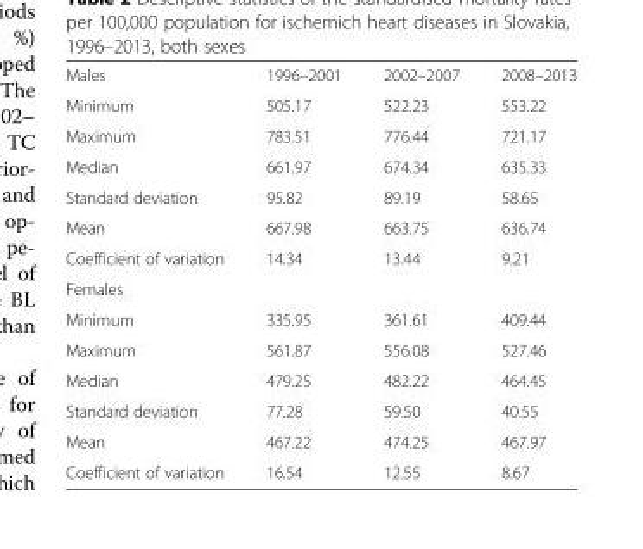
<table><tbody><tr><td>Males</td><td>1996–2001</td><td>2002–2007</td><td>2008–2013</td></tr><tr><td>Minimum</td><td>505.17</td><td>522.23</td><td>553.22</td></tr><tr><td>Maximum</td><td>783.51</td><td>776.44</td><td>721.17</td></tr><tr><td>Median</td><td>661.97</td><td>674.34</td><td>635.33</td></tr><tr><td>Standard deviation</td><td>95.82</td><td>89.19</td><td>58.65</td></tr><tr><td>Mean</td><td>667.98</td><td>663.75</td><td>636.74</td></tr><tr><td>Coefficient of variation</td><td>14.34</td><td>13.44</td><td>9.21</td></tr><tr><td colspan="4">Females</td></tr><tr><td>Minimum</td><td>335.95</td><td>361.61</td><td>409.44</td></tr><tr><td>Maximum</td><td>561.87</td><td>556.08</td><td>527.46</td></tr><tr><td>Median</td><td>479.25</td><td>482.22</td><td>464.45</td></tr><tr><td>Standard deviation</td><td>77.28</td><td>59.50</td><td>40.55</td></tr><tr><td>Mean</td><td>467.22</td><td>474.25</td><td>467.97</td></tr><tr><td>Coefficient of variation</td><td>16.54</td><td>12.55</td><td>8.67</td></tr></tbody></table>